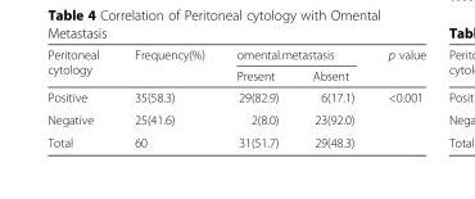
<table><thead><tr><td rowspan="2">Peritoneal cytology</td><td rowspan="2">Frequency(%)</td><td colspan="2">omental.metastasis</td><td rowspan="2">p value</td></tr><tr><td>Present</td><td>Absent</td></tr></thead><tbody><tr><td>Positive</td><td>35(58.3)</td><td>29(82.9)</td><td>6(17.1)</td><td rowspan="3">&lt;0.001</td></tr><tr><td>Negative</td><td>25(41.6)</td><td>2(8.0)</td><td>23(92.0)</td></tr><tr><td>Total</td><td>60</td><td>31(51.7)</td><td>29(48.3)</td></tr></tbody></table>